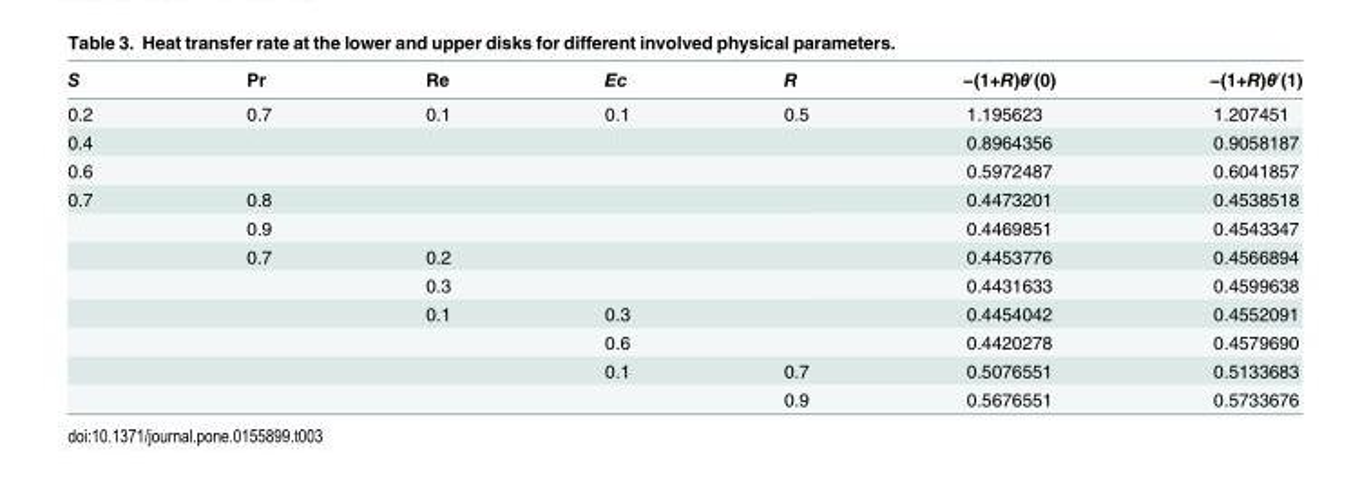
<table><thead><tr><td>S</td><td>Pr</td><td>Re</td><td>Ec</td><td>R</td><td>−(1+R)θ′(0)</td><td>−(1+R)θ′(1)</td></tr></thead><tbody><tr><td>0.2</td><td>0.7</td><td>0.1</td><td>0.1</td><td>0.5</td><td>1.195623</td><td>1.207451</td></tr><tr><td>0.4</td><td></td><td></td><td></td><td></td><td>0.8964356</td><td>0.9058187</td></tr><tr><td>0.6</td><td></td><td></td><td></td><td></td><td>0.5972487</td><td>0.6041857</td></tr><tr><td rowspan="8">0.7</td><td>0.8</td><td></td><td></td><td></td><td>0.4473201</td><td>0.4538518</td></tr><tr><td>0.9</td><td></td><td></td><td></td><td>0.4469851</td><td>0.4543347</td></tr><tr><td>0.7</td><td>0.2</td><td></td><td></td><td>0.4453776</td><td>0.4566894</td></tr><tr><td></td><td>0.3</td><td></td><td></td><td>0.4431633</td><td>0.4599638</td></tr><tr><td></td><td>0.1</td><td>0.3</td><td></td><td>0.4454042</td><td>0.4552091</td></tr><tr><td></td><td></td><td>0.6</td><td></td><td>0.4420278</td><td>0.4579690</td></tr><tr><td></td><td></td><td>0.1</td><td>0.7</td><td>0.5076551</td><td>0.5133683</td></tr><tr><td></td><td></td><td></td><td>0.9</td><td>0.5676551</td><td>0.5733676</td></tr></tbody></table>